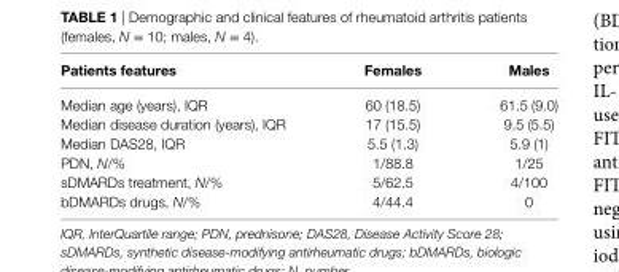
<table><thead><tr><td>Patients features</td><td>Females</td><td>Males</td></tr></thead><tbody><tr><td>Median age (years), IQR</td><td>60 (18.5)</td><td>61.5 (9.0)</td></tr><tr><td>Median disease duration (years), IQR</td><td>17 (15.5)</td><td>9.5 (5.5)</td></tr><tr><td>Median DAS28, IQR</td><td>5.5 (1.3)</td><td>5.9 (1)</td></tr><tr><td>PDN, N/%</td><td>1/88.8</td><td>1/25</td></tr><tr><td>sDMARDs treatment, N/%</td><td>5/62.5</td><td>4/100</td></tr><tr><td>bDMARDs drugs, N/%</td><td>4/44.4</td><td>0</td></tr></tbody></table>